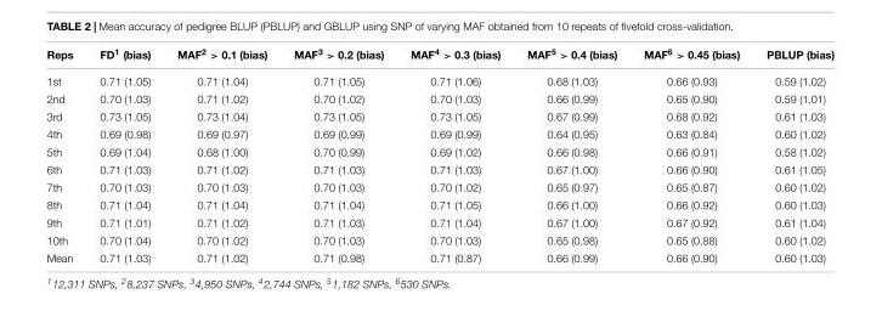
<table><thead><tr><td>Reps</td><td>FD<sup>1</sup> (bias)</td><td>MAF<sup>2</sup> &gt; 0.1 (bias)</td><td>MAF<sup>3</sup> &gt; 0.2 (bias)</td><td>MAF<sup>4</sup> &gt; 0.3 (bias)</td><td>MAF<sup>5</sup> &gt; 0.4 (bias)</td><td>MAF<sup>6</sup> &gt; 0.45 (bias)</td><td>PBLUP (bias)</td></tr></thead><tbody><tr><td>1st</td><td>0.71 (1.05)</td><td>0.71 (1.04)</td><td>0.71 (1.05)</td><td>0.71 (1.06)</td><td>0.68 (1.03)</td><td>0.66 (0.93)</td><td>0.59 (1.02)</td></tr><tr><td>2nd</td><td>0.70 (1.03)</td><td>0.71 (1.02)</td><td>0.70 (1.02)</td><td>0.70 (1.03)</td><td>0.66 (0.99)</td><td>0.65 (0.90)</td><td>0.59 (1.01)</td></tr><tr><td>3rd</td><td>0.73 (1.05)</td><td>0.73 (1.04)</td><td>0.73 (1.05)</td><td>0.73 (1.05)</td><td>0.67 (0.99)</td><td>0.68 (0.92)</td><td>0.61 (1.03)</td></tr><tr><td>4th</td><td>0.69 (0.98)</td><td>0.69 (0.97)</td><td>0.69 (0.99)</td><td>0.69 (0.99)</td><td>0.64 (0.95)</td><td>0.63 (0.84)</td><td>0.60 (1.02)</td></tr><tr><td>5th</td><td>0.69 (1.04)</td><td>0.68 (1.00)</td><td>0.70 (0.99)</td><td>0.69 (1.02)</td><td>0.66 (0.98)</td><td>0.66 (0.91)</td><td>0.58 (1.02)</td></tr><tr><td>6th</td><td>0.71 (1.03)</td><td>0.71 (1.02)</td><td>0.71 (1.03)</td><td>0.71 (1.03)</td><td>0.67 (1.00)</td><td>0.66 (0.90)</td><td>0.61 (1.05)</td></tr><tr><td>7th</td><td>0.70 (1.03)</td><td>0.70 (1.03)</td><td>0.70 (1.03)</td><td>0.70 (1.02)</td><td>0.65 (0.97)</td><td>0.65 (0.87)</td><td>0.60 (1.02)</td></tr><tr><td>8th</td><td>0.71 (1.04)</td><td>0.71 (1.04)</td><td>0.71 (1.04)</td><td>0.71 (1.05)</td><td>0.66 (1.00)</td><td>0.66 (0.92)</td><td>0.60 (1.03)</td></tr><tr><td>9th</td><td>0.71 (1.01)</td><td>0.71 (1.02)</td><td>0.71 (1.03)</td><td>0.71 (1.04)</td><td>0.67 (1.00)</td><td>0.67 (0.92)</td><td>0.61 (1.04)</td></tr><tr><td>10th</td><td>0.70 (1.04)</td><td>0.70 (1.02)</td><td>0.70 (1.03)</td><td>0.70 (1.03)</td><td>0.65 (0.98)</td><td>0.65 (0.88)</td><td>0.60 (1.02)</td></tr><tr><td>Mean</td><td>0.71 (1.03)</td><td>0.71 (1.02)</td><td>0.71 (0.98)</td><td>0.71 (0.87)</td><td>0.66 (0.99)</td><td>0.66 (0.90)</td><td>0.60 (1.03)</td></tr></tbody></table>